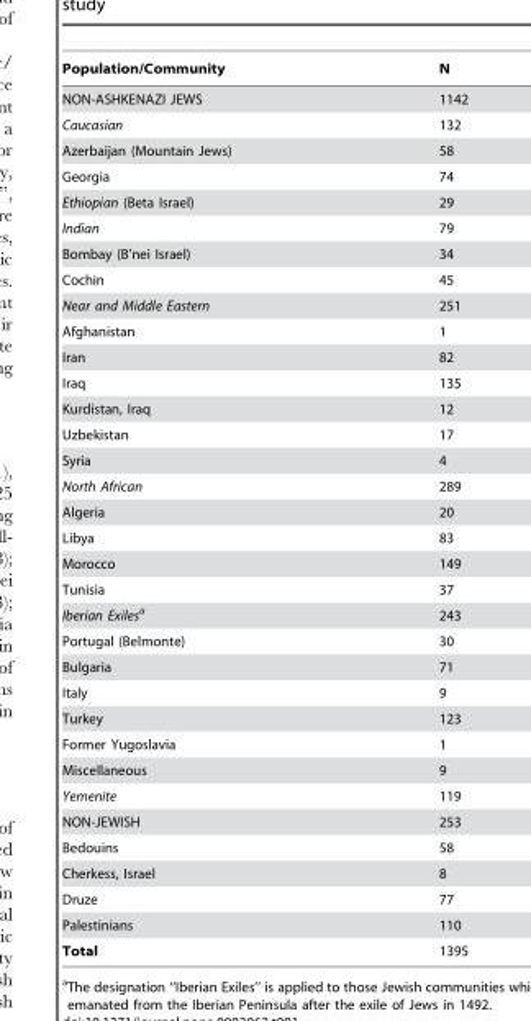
<table><thead><tr><td>Population/Community</td><td>N</td></tr></thead><tbody><tr><td>NON-ASHKENAZI JEWS</td><td>1142</td></tr><tr><td>Caucasian</td><td>132</td></tr><tr><td>Azerbaijan (Mountain Jews)</td><td>58</td></tr><tr><td>Georgia</td><td>74</td></tr><tr><td>Ethiopian (Beta Israel)</td><td>29</td></tr><tr><td>Indian</td><td>79</td></tr><tr><td>Bombay (B’nei Israel)</td><td>34</td></tr><tr><td>Cochin</td><td>45</td></tr><tr><td>Near and Middle Eastern</td><td>251</td></tr><tr><td>Afghanistan</td><td>1</td></tr><tr><td>Iran</td><td>82</td></tr><tr><td>Iraq</td><td>135</td></tr><tr><td>Kurdistan, Iraq</td><td>12</td></tr><tr><td>Uzbekistan</td><td>17</td></tr><tr><td>Syria</td><td>4</td></tr><tr><td>North African</td><td>289</td></tr><tr><td>Algeria</td><td>20</td></tr><tr><td>Libya</td><td>83</td></tr><tr><td>Morocco</td><td>149</td></tr><tr><td>Tunisia</td><td>37</td></tr><tr><td>Iberian Exilesa</td><td>243</td></tr><tr><td>Portugal (Belmonte)</td><td>30</td></tr><tr><td>Bulgaria</td><td>71</td></tr><tr><td>Italy</td><td>9</td></tr><tr><td>Turkey</td><td>123</td></tr><tr><td>Former Yugoslavia</td><td>1</td></tr><tr><td>Miscellaneous</td><td>9</td></tr><tr><td>Yemenite</td><td>119</td></tr><tr><td>NON-JEWISH</td><td>253</td></tr><tr><td>Bedouins</td><td>58</td></tr><tr><td>Cherkess, Israel</td><td>8</td></tr><tr><td>Druze</td><td>77</td></tr><tr><td>Palestinians</td><td>110</td></tr><tr><td>Total</td><td>1395</td></tr></tbody></table>